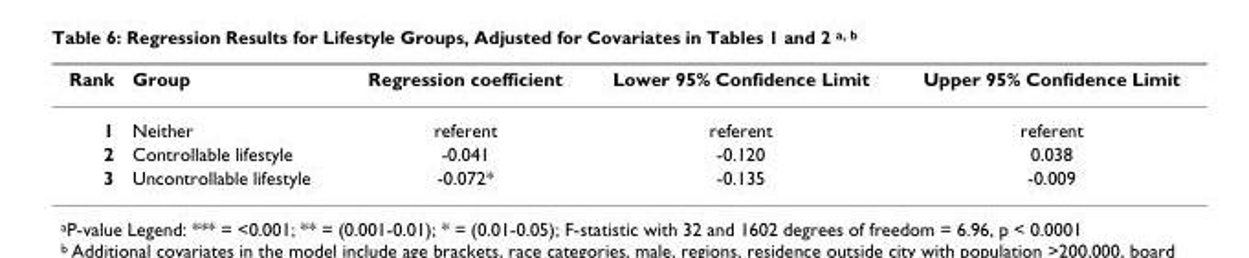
<table><thead><tr><td>Rank</td><td>Group</td><td>Regression coefficient</td><td>Lower 95% Confidence Limit</td><td>Upper 95% Confidence Limit</td></tr></thead><tbody><tr><td>1</td><td>Neither</td><td>referent</td><td>referent</td><td>referent</td></tr><tr><td>2</td><td>Controllable lifestyle</td><td>-0.041</td><td>-0.120</td><td>0.038</td></tr><tr><td>3</td><td>Uncontrollable lifestyle</td><td>-0.072*</td><td>-0.135</td><td>-0.009</td></tr></tbody></table>